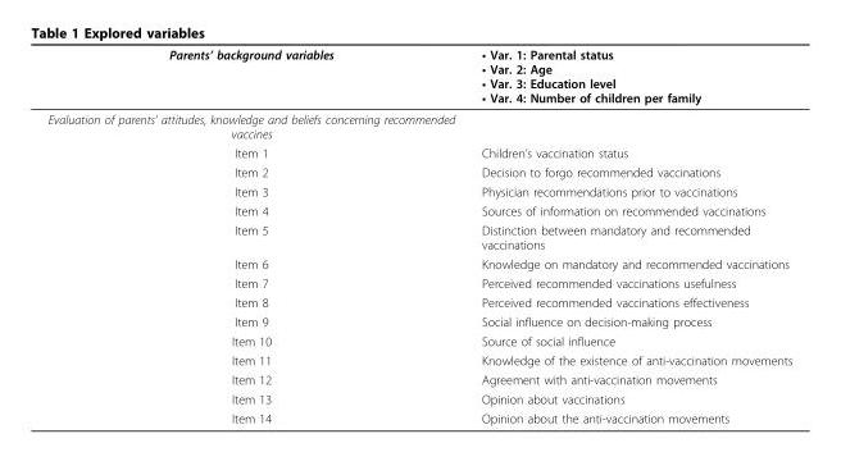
<table><thead><tr><td>Parents’ background variables</td><td>• Var. 1: Parental status • Var. 2: Age • Var. 3: Education level • Var. 4: Number of children per family</td></tr></thead><tbody><tr><td colspan="2">Evaluation of parents’ attitudes, knowledge and beliefs concerning recommended vaccines</td></tr><tr><td>Item 1</td><td>Children’s vaccination status</td></tr><tr><td>Item 2</td><td>Decision to forgo recommended vaccinations</td></tr><tr><td>Item 3</td><td>Physician recommendations prior to vaccinations</td></tr><tr><td>Item 4</td><td>Sources of information on recommended vaccinations</td></tr><tr><td>Item 5</td><td>Distinction between mandatory and recommended vaccinations</td></tr><tr><td>Item 6</td><td>Knowledge on mandatory and recommended vaccinations</td></tr><tr><td>Item 7</td><td>Perceived recommended vaccinations usefulness</td></tr><tr><td>Item 8</td><td>Perceived recommended vaccinations effectiveness</td></tr><tr><td>Item 9</td><td>Social influence on decision-making process</td></tr><tr><td>Item 10</td><td>Source of social influence</td></tr><tr><td>Item 11</td><td>Knowledge of the existence of anti-vaccination movements</td></tr><tr><td>Item 12</td><td>Agreement with anti-vaccination movements</td></tr><tr><td>Item 13</td><td>Opinion about vaccinations</td></tr><tr><td>Item 14</td><td>Opinion about the anti-vaccination movements</td></tr></tbody></table>